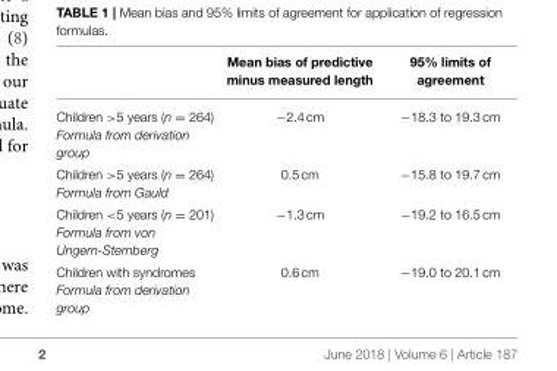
<table><thead><tr><td></td><td>Mean bias of predictive minus measured length</td><td>95% limits of agreement</td></tr></thead><tbody><tr><td>Children &gt;5 years (n = 264) Formula from derivation group</td><td>−2.4 cm</td><td>−18.3 to 19.3 cm</td></tr><tr><td>Children &gt;5 years (n = 264) Formula from Gauld</td><td>0.5 cm</td><td>−15.8 to 19.7 cm</td></tr><tr><td>Children &lt;5 years (n = 201) Formula from von Ungern-Sternberg</td><td>−1.3 cm</td><td>−19.2 to 16.5 cm</td></tr><tr><td>Children with syndromes Formula from derivation group</td><td>0.6 cm</td><td>−19.0 to 20.1 cm</td></tr></tbody></table>